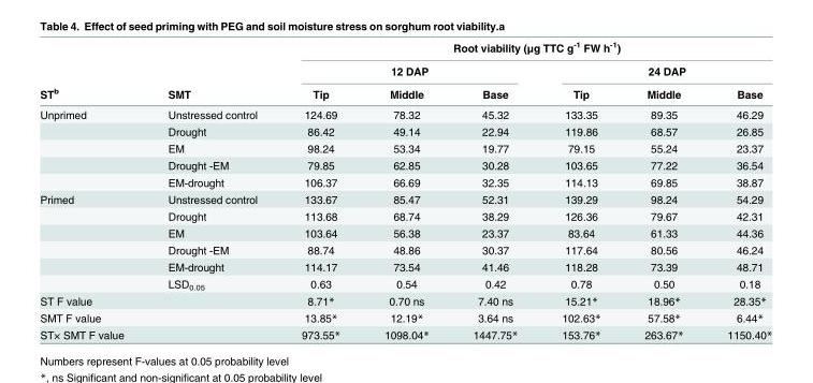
<table><thead><tr><td rowspan="3">ST<sup>b</sup></td><td rowspan="3">SMT</td><td colspan="6">Root viability (μg TTC g<sup>-1</sup> FW h<sup>-1</sup>)</td></tr><tr><td colspan="3">12 DAP</td><td colspan="3">24 DAP</td></tr><tr><td>Tip</td><td>Middle</td><td>Base</td><td>Tip</td><td>Middle</td><td>Base</td></tr></thead><tbody><tr><td rowspan="5">Unprimed</td><td>Unstressed control</td><td>124.69</td><td>78.32</td><td>45.32</td><td>133.35</td><td>89.35</td><td>46.29</td></tr><tr><td>Drought</td><td>86.42</td><td>49.14</td><td>22.94</td><td>119.86</td><td>68.57</td><td>26.85</td></tr><tr><td>EM</td><td>98.24</td><td>53.34</td><td>19.77</td><td>79.15</td><td>55.24</td><td>23.37</td></tr><tr><td>Drought -EM</td><td>79.85</td><td>62.85</td><td>30.28</td><td>103.65</td><td>77.22</td><td>36.54</td></tr><tr><td>EM-drought</td><td>106.37</td><td>66.69</td><td>32.35</td><td>114.13</td><td>69.85</td><td>38.87</td></tr><tr><td rowspan="6">Primed</td><td>Unstressed control</td><td>133.67</td><td>85.47</td><td>52.31</td><td>139.29</td><td>98.24</td><td>54.29</td></tr><tr><td>Drought</td><td>113.68</td><td>68.74</td><td>38.29</td><td>126.36</td><td>79.67</td><td>42.31</td></tr><tr><td>EM</td><td>103.64</td><td>56.38</td><td>23.37</td><td>83.64</td><td>61.33</td><td>44.36</td></tr><tr><td>Drought -EM</td><td>88.74</td><td>48.86</td><td>30.37</td><td>117.64</td><td>80.56</td><td>46.24</td></tr><tr><td>EM-drought</td><td>114.17</td><td>73.54</td><td>41.46</td><td>118.28</td><td>73.39</td><td>48.71</td></tr><tr><td>LSD<sub>0.05</sub></td><td>0.63</td><td>0.54</td><td>0.42</td><td>0.78</td><td>0.50</td><td>0.18</td></tr><tr><td>ST F value</td><td></td><td>8.71*</td><td>0.70 ns</td><td>7.40 ns</td><td>15.21*</td><td>18.96*</td><td>28.35*</td></tr><tr><td>SMT F value</td><td></td><td>13.85*</td><td>12.19*</td><td>3.64 ns</td><td>102.63*</td><td>57.58*</td><td>6.44*</td></tr><tr><td>ST× SMT F value</td><td></td><td>973.55*</td><td>1098.04*</td><td>1447.75*</td><td>153.76*</td><td>263.67*</td><td>1150.40*</td></tr></tbody></table>